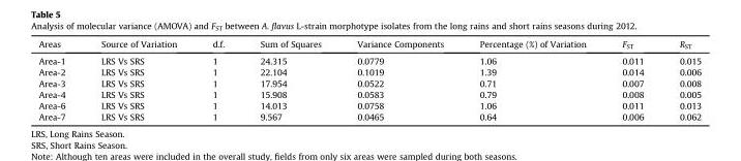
<table><thead><tr><td>Areas</td><td>Source of Variation</td><td>d.f.</td><td>Sum of Squares</td><td>Variance Components</td><td>Percentage (%) of Variation</td><td>F<sub>ST</sub></td><td>R<sub>ST</sub></td></tr></thead><tbody><tr><td>Area-1</td><td>LRS Vs SRS</td><td>1</td><td>24.315</td><td>0.0779</td><td>1.06</td><td>0.011</td><td>0.015</td></tr><tr><td>Area-2</td><td>LRS Vs SRS</td><td>1</td><td>22.104</td><td>0.1019</td><td>1.39</td><td>0.014</td><td>0.006</td></tr><tr><td>Area-3</td><td>LRS Vs SRS</td><td>1</td><td>17.954</td><td>0.0522</td><td>0.71</td><td>0.007</td><td>0.008</td></tr><tr><td>Area-4</td><td>LRS Vs SRS</td><td>1</td><td>15.908</td><td>0.0583</td><td>0.79</td><td>0.008</td><td>0.005</td></tr><tr><td>Area-6</td><td>LRS Vs SRS</td><td>1</td><td>14.013</td><td>0.0758</td><td>1.06</td><td>0.011</td><td>0.013</td></tr><tr><td>Area-7</td><td>LRS Vs SRS</td><td>1</td><td>9.567</td><td>0.0465</td><td>0.64</td><td>0.006</td><td>0.062</td></tr></tbody></table>